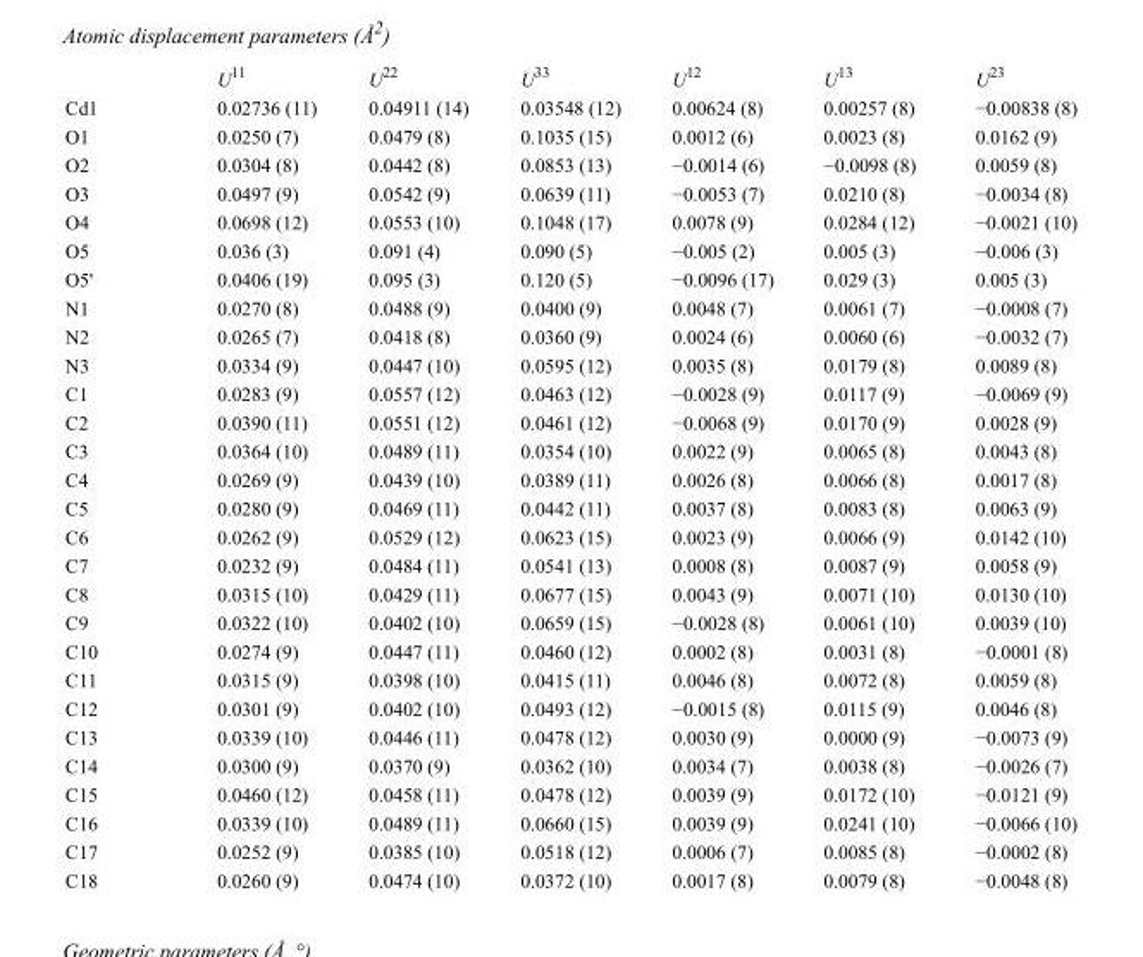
<table><thead><tr><td></td><td>U<sup>11</sup></td><td>U<sup>22</sup></td><td>U<sup>33</sup></td><td>U<sup>12</sup></td><td>U<sup>13</sup></td><td>U<sup>23</sup></td></tr></thead><tbody><tr><td>Cd1</td><td>0.02736 (11)</td><td>0.04911 (14)</td><td>0.03548 (12)</td><td>0.00624 (8)</td><td>0.00257 (8)</td><td>−0.00838 (8)</td></tr><tr><td>O1</td><td>0.0250 (7)</td><td>0.0479 (8)</td><td>0.1035 (15)</td><td>0.0012 (6)</td><td>0.0023 (8)</td><td>0.0162 (9)</td></tr><tr><td>O2</td><td>0.0304 (8)</td><td>0.0442 (8)</td><td>0.0853 (13)</td><td>−0.0014 (6)</td><td>−0.0098 (8)</td><td>0.0059 (8)</td></tr><tr><td>O3</td><td>0.0497 (9)</td><td>0.0542 (9)</td><td>0.0639 (11)</td><td>−0.0053 (7)</td><td>0.0210 (8)</td><td>−0.0034 (8)</td></tr><tr><td>O4</td><td>0.0698 (12)</td><td>0.0553 (10)</td><td>0.1048 (17)</td><td>0.0078 (9)</td><td>0.0284 (12)</td><td>−0.0021 (10)</td></tr><tr><td>O5</td><td>0.036 (3)</td><td>0.091 (4)</td><td>0.090 (5)</td><td>−0.005 (2)</td><td>0.005 (3)</td><td>−0.006 (3)</td></tr><tr><td>O5&#x27;</td><td>0.0406 (19)</td><td>0.095 (3)</td><td>0.120 (5)</td><td>−0.0096 (17)</td><td>0.029 (3)</td><td>0.005 (3)</td></tr><tr><td>N1</td><td>0.0270 (8)</td><td>0.0488 (9)</td><td>0.0400 (9)</td><td>0.0048 (7)</td><td>0.0061 (7)</td><td>−0.0008 (7)</td></tr><tr><td>N2</td><td>0.0265 (7)</td><td>0.0418 (8)</td><td>0.0360 (9)</td><td>0.0024 (6)</td><td>0.0060 (6)</td><td>−0.0032 (7)</td></tr><tr><td>N3</td><td>0.0334 (9)</td><td>0.0447 (10)</td><td>0.0595 (12)</td><td>0.0035 (8)</td><td>0.0179 (8)</td><td>0.0089 (8)</td></tr><tr><td>C1</td><td>0.0283 (9)</td><td>0.0557 (12)</td><td>0.0463 (12)</td><td>−0.0028 (9)</td><td>0.0117 (9)</td><td>−0.0069 (9)</td></tr><tr><td>C2</td><td>0.0390 (11)</td><td>0.0551 (12)</td><td>0.0461 (12)</td><td>−0.0068 (9)</td><td>0.0170 (9)</td><td>0.0028 (9)</td></tr><tr><td>C3</td><td>0.0364 (10)</td><td>0.0489 (11)</td><td>0.0354 (10)</td><td>0.0022 (9)</td><td>0.0065 (8)</td><td>0.0043 (8)</td></tr><tr><td>C4</td><td>0.0269 (9)</td><td>0.0439 (10)</td><td>0.0389 (11)</td><td>0.0026 (8)</td><td>0.0066 (8)</td><td>0.0017 (8)</td></tr><tr><td>C5</td><td>0.0280 (9)</td><td>0.0469 (11)</td><td>0.0442 (11)</td><td>0.0037 (8)</td><td>0.0083 (8)</td><td>0.0063 (9)</td></tr><tr><td>C6</td><td>0.0262 (9)</td><td>0.0529 (12)</td><td>0.0623 (15)</td><td>0.0023 (9)</td><td>0.0066 (9)</td><td>0.0142 (10)</td></tr><tr><td>C7</td><td>0.0232 (9)</td><td>0.0484 (11)</td><td>0.0541 (13)</td><td>0.0008 (8)</td><td>0.0087 (9)</td><td>0.0058 (9)</td></tr><tr><td>C8</td><td>0.0315 (10)</td><td>0.0429 (11)</td><td>0.0677 (15)</td><td>0.0043 (9)</td><td>0.0071 (10)</td><td>0.0130 (10)</td></tr><tr><td>C9</td><td>0.0322 (10)</td><td>0.0402 (10)</td><td>0.0659 (15)</td><td>−0.0028 (8)</td><td>0.0061 (10)</td><td>0.0039 (10)</td></tr><tr><td>C10</td><td>0.0274 (9)</td><td>0.0447 (11)</td><td>0.0460 (12)</td><td>0.0002 (8)</td><td>0.0031 (8)</td><td>−0.0001 (8)</td></tr><tr><td>C11</td><td>0.0315 (9)</td><td>0.0398 (10)</td><td>0.0415 (11)</td><td>0.0046 (8)</td><td>0.0072 (8)</td><td>0.0059 (8)</td></tr><tr><td>C12</td><td>0.0301 (9)</td><td>0.0402 (10)</td><td>0.0493 (12)</td><td>−0.0015 (8)</td><td>0.0115 (9)</td><td>0.0046 (8)</td></tr><tr><td>C13</td><td>0.0339 (10)</td><td>0.0446 (11)</td><td>0.0478 (12)</td><td>0.0030 (9)</td><td>0.0000 (9)</td><td>−0.0073 (9)</td></tr><tr><td>C14</td><td>0.0300 (9)</td><td>0.0370 (9)</td><td>0.0362 (10)</td><td>0.0034 (7)</td><td>0.0038 (8)</td><td>−0.0026 (7)</td></tr><tr><td>C15</td><td>0.0460 (12)</td><td>0.0458 (11)</td><td>0.0478 (12)</td><td>0.0039 (9)</td><td>0.0172 (10)</td><td>−0.0121 (9)</td></tr><tr><td>C16</td><td>0.0339 (10)</td><td>0.0489 (11)</td><td>0.0660 (15)</td><td>0.0039 (9)</td><td>0.0241 (10)</td><td>−0.0066 (10)</td></tr><tr><td>C17</td><td>0.0252 (9)</td><td>0.0385 (10)</td><td>0.0518 (12)</td><td>0.0006 (7)</td><td>0.0085 (8)</td><td>−0.0002 (8)</td></tr><tr><td>C18</td><td>0.0260 (9)</td><td>0.0474 (10)</td><td>0.0372 (10)</td><td>0.0017 (8)</td><td>0.0079 (8)</td><td>−0.0048 (8)</td></tr></tbody></table>